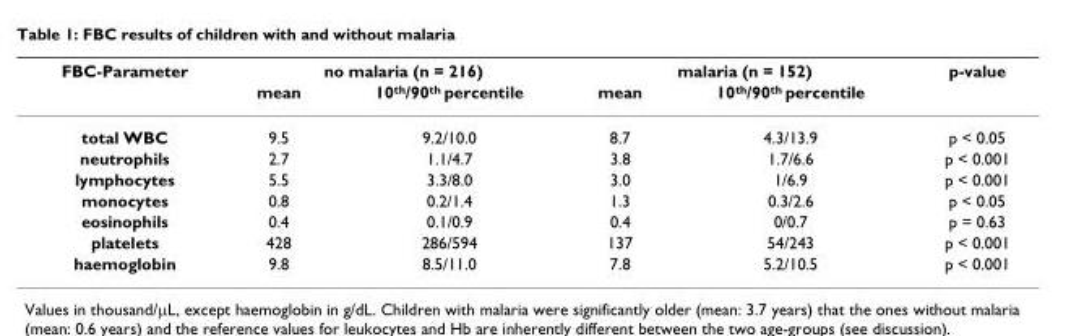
<table><thead><tr><td rowspan="2">FBC-Parameter</td><td colspan="2">no malaria (n = 216)</td><td colspan="2">malaria (n = 152)</td><td rowspan="2">p-value</td></tr><tr><td>mean</td><td>10<sup>th</sup>/90<sup>th</sup> percentile</td><td>mean</td><td>10<sup>th</sup>/90<sup>th</sup> percentile</td></tr></thead><tbody><tr><td>total WBC</td><td>9.5</td><td>9.2/10.0</td><td>8.7</td><td>4.3/13.9</td><td>p &lt; 0.05</td></tr><tr><td>neutrophils</td><td>2.7</td><td>1.1/4.7</td><td>3.8</td><td>1.7/6.6</td><td>p &lt; 0.001</td></tr><tr><td>lymphocytes</td><td>5.5</td><td>3.3/8.0</td><td>3.0</td><td>1/6.9</td><td>p &lt; 0.001</td></tr><tr><td>monocytes</td><td>0.8</td><td>0.2/1.4</td><td>1.3</td><td>0.3/2.6</td><td>p &lt; 0.05</td></tr><tr><td>eosinophils</td><td>0.4</td><td>0.1/0.9</td><td>0.4</td><td>0/0.7</td><td>p = 0.63</td></tr><tr><td>platelets</td><td>428</td><td>286/594</td><td>137</td><td>54/243</td><td>p &lt; 0.001</td></tr><tr><td>haemoglobin</td><td>9.8</td><td>8.5/11.0</td><td>7.8</td><td>5.2/10.5</td><td>p &lt; 0.001</td></tr></tbody></table>